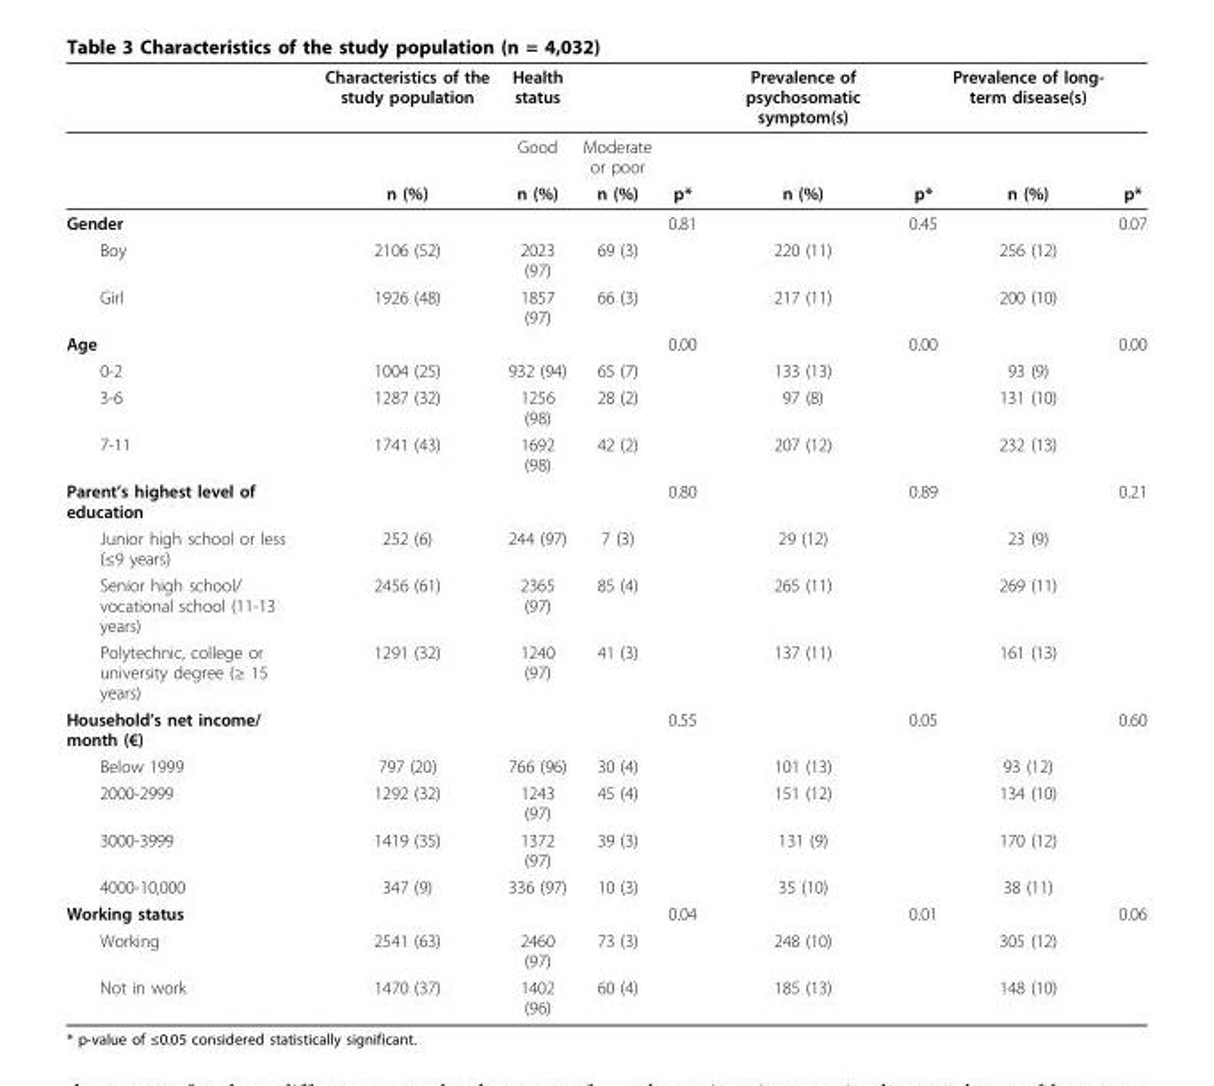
<table><thead><tr><td></td><td>Characteristics of the study population</td><td>Health status</td><td></td><td></td><td>Prevalence of psychosomatic symptom(s)</td><td></td><td>Prevalence of long- term disease(s)</td><td></td></tr></thead><tbody><tr><td></td><td></td><td>Good</td><td>Moderate or poor</td><td></td><td></td><td></td><td></td><td></td></tr><tr><td></td><td>n (%)</td><td>n (%)</td><td>n (%)</td><td>p*</td><td>n (%)</td><td>p*</td><td>n (%)</td><td>p*</td></tr><tr><td>Gender</td><td></td><td></td><td></td><td>0.81</td><td></td><td>0.45</td><td></td><td>0.07</td></tr><tr><td>Boy</td><td>2106 (52)</td><td>2023 (97)</td><td>69 (3)</td><td></td><td>220 (11)</td><td></td><td>256 (12)</td><td></td></tr><tr><td>Girl</td><td>1926 (48)</td><td>1857 (97)</td><td>66 (3)</td><td></td><td>217 (11)</td><td></td><td>200 (10)</td><td></td></tr><tr><td>Age</td><td></td><td></td><td></td><td>0.00</td><td></td><td>0.00</td><td></td><td>0.00</td></tr><tr><td>0-2</td><td>1004 (25)</td><td>932 (94)</td><td>65 (7)</td><td></td><td>133 (13)</td><td></td><td>93 (9)</td><td></td></tr><tr><td>3-6</td><td>1287 (32)</td><td>1256 (98)</td><td>28 (2)</td><td></td><td>97 (8)</td><td></td><td>131 (10)</td><td></td></tr><tr><td>7-11</td><td>1741 (43)</td><td>1692 (98)</td><td>42 (2)</td><td></td><td>207 (12)</td><td></td><td>232 (13)</td><td></td></tr><tr><td>Parent’s highest level of education</td><td></td><td></td><td></td><td>0.80</td><td></td><td>0.89</td><td></td><td>0.21</td></tr><tr><td>Junior high school or less (≤9 years)</td><td>252 (6)</td><td>244 (97)</td><td>7 (3)</td><td></td><td>29 (12)</td><td></td><td>23 (9)</td><td></td></tr><tr><td>Senior high school/ vocational school (11-13 years)</td><td>2456 (61)</td><td>2365 (97)</td><td>85 (4)</td><td></td><td>265 (11)</td><td></td><td>269 (11)</td><td></td></tr><tr><td>Polytechnic, college or university degree (≥ 15 years)</td><td>1291 (32)</td><td>1240 (97)</td><td>41 (3)</td><td></td><td>137 (11)</td><td></td><td>161 (13)</td><td></td></tr><tr><td>Household’s net income/ month (€)</td><td></td><td></td><td></td><td>0.55</td><td></td><td>0.05</td><td></td><td>0.60</td></tr><tr><td>Below 1999</td><td>797 (20)</td><td>766 (96)</td><td>30 (4)</td><td></td><td>101 (13)</td><td></td><td>93 (12)</td><td></td></tr><tr><td>2000-2999</td><td>1292 (32)</td><td>1243 (97)</td><td>45 (4)</td><td></td><td>151 (12)</td><td></td><td>134 (10)</td><td></td></tr><tr><td>3000-3999</td><td>1419 (35)</td><td>1372 (97)</td><td>39 (3)</td><td></td><td>131 (9)</td><td></td><td>170 (12)</td><td></td></tr><tr><td>4000-10,000</td><td>347 (9)</td><td>336 (97)</td><td>10 (3)</td><td></td><td>35 (10)</td><td></td><td>38 (11)</td><td></td></tr><tr><td>Working status</td><td></td><td></td><td></td><td>0.04</td><td></td><td>0.01</td><td></td><td>0.06</td></tr><tr><td>Working</td><td>2541 (63)</td><td>2460 (97)</td><td>73 (3)</td><td></td><td>248 (10)</td><td></td><td>305 (12)</td><td></td></tr><tr><td>Not in work</td><td>1470 (37)</td><td>1402 (96)</td><td>60 (4)</td><td></td><td>185 (13)</td><td></td><td>148 (10)</td><td></td></tr></tbody></table>